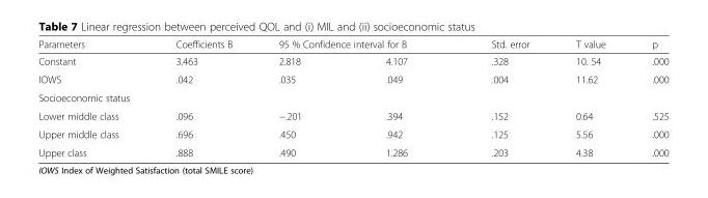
<table><thead><tr><td rowspan="2">Parameters Constant</td><td rowspan="2">Coefficients B 3.463</td><td colspan="2">95 % Confidence interval for B</td><td rowspan="2">Std. error .328</td><td rowspan="2">T value 10. 54</td><td rowspan="2">p .000</td></tr><tr><td>2.818</td><td>4.107</td></tr></thead><tbody><tr><td>IOWS</td><td>.042</td><td>.035</td><td>.049</td><td>.004</td><td>11.62</td><td>.000</td></tr><tr><td colspan="7">Socioeconomic status</td></tr><tr><td>Lower middle class</td><td>.096</td><td>−.201</td><td>.394</td><td>.152</td><td>0.64</td><td>.525</td></tr><tr><td>Upper middle class</td><td>.696</td><td>.450</td><td>.942</td><td>.125</td><td>5.56</td><td>.000</td></tr><tr><td>Upper class</td><td>.888</td><td>.490</td><td>1.286</td><td>.203</td><td>4.38</td><td>.000</td></tr></tbody></table>